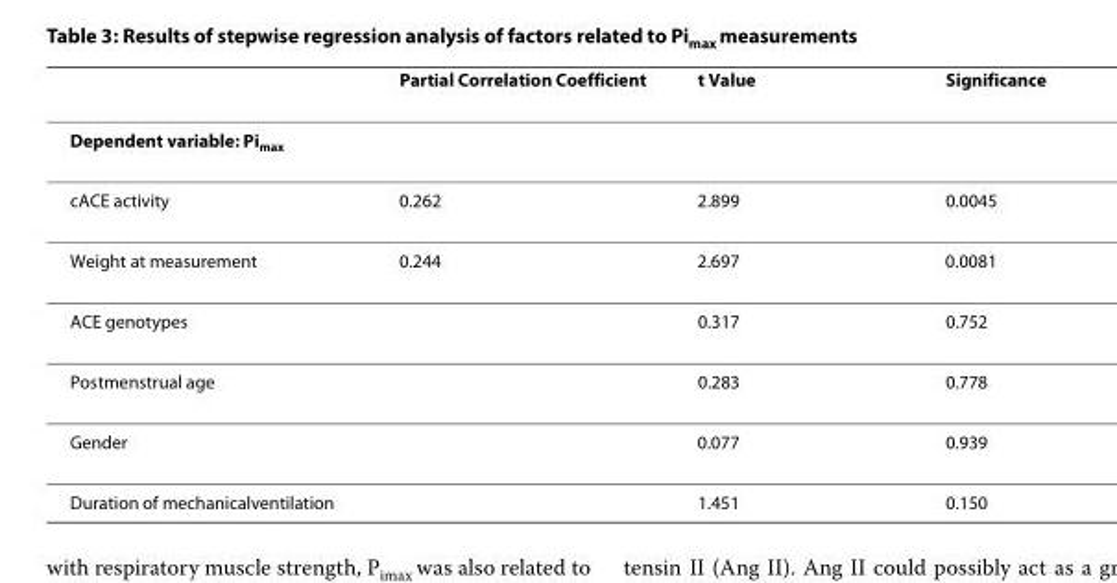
<table><thead><tr><td></td><td>Partial Correlation Coefficient</td><td>t Value</td><td>Significance</td></tr></thead><tbody><tr><td colspan="4">Dependent variable: Pi<sub>max</sub></td></tr><tr><td>cACE activity</td><td>0.262</td><td>2.899</td><td>0.0045</td></tr><tr><td>Weight at measurement</td><td>0.244</td><td>2.697</td><td>0.0081</td></tr><tr><td>ACE genotypes</td><td></td><td>0.317</td><td>0.752</td></tr><tr><td>Postmenstrual age</td><td></td><td>0.283</td><td>0.778</td></tr><tr><td>Gender</td><td></td><td>0.077</td><td>0.939</td></tr><tr><td>Duration of mechanicalventilation</td><td></td><td>1.451</td><td>0.150</td></tr></tbody></table>